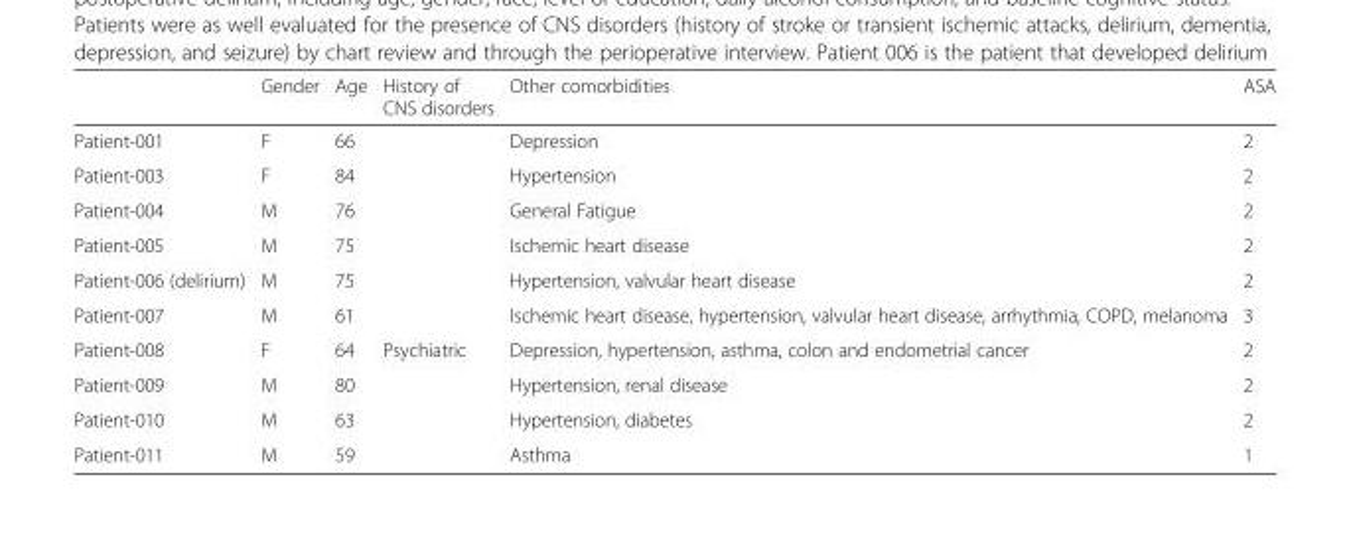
<table><thead><tr><td></td><td>Gender</td><td>Age</td><td>History of CNS disorders</td><td>Other comorbidities</td><td>ASA</td></tr></thead><tbody><tr><td>Patient-001</td><td>F</td><td>66</td><td></td><td>Depression</td><td>2</td></tr><tr><td>Patient-003</td><td>F</td><td>84</td><td></td><td>Hypertension</td><td>2</td></tr><tr><td>Patient-004</td><td>M</td><td>76</td><td></td><td>General Fatigue</td><td>2</td></tr><tr><td>Patient-005</td><td>M</td><td>75</td><td></td><td>Ischemic heart disease</td><td>2</td></tr><tr><td>Patient-006 (delirium)</td><td>M</td><td>75</td><td></td><td>Hypertension, valvular heart disease</td><td>2</td></tr><tr><td>Patient-007</td><td>M</td><td>61</td><td></td><td>Ischemic heart disease, hypertension, valvular heart disease, arrhythmia, COPD, melanoma</td><td>3</td></tr><tr><td>Patient-008</td><td>F</td><td>64</td><td>Psychiatric</td><td>Depression, hypertension, asthma, colon and endometrial cancer</td><td>2</td></tr><tr><td>Patient-009</td><td>M</td><td>80</td><td></td><td>Hypertension, renal disease</td><td>2</td></tr><tr><td>Patient-010</td><td>M</td><td>63</td><td></td><td>Hypertension, diabetes</td><td>2</td></tr><tr><td>Patient-011</td><td>M</td><td>59</td><td></td><td>Asthma</td><td>1</td></tr></tbody></table>